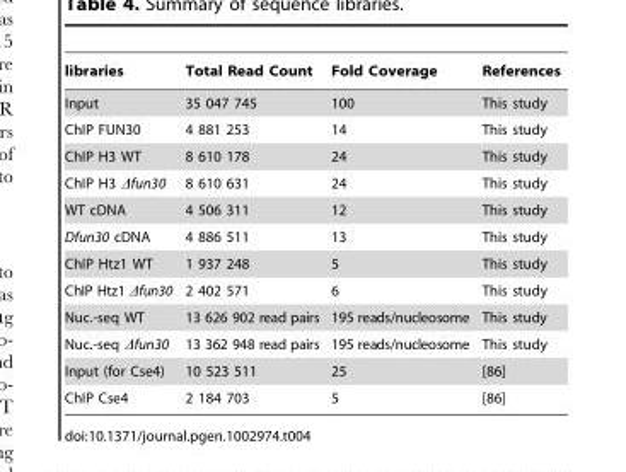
<table><thead><tr><td>libraries</td><td>Total Read Count</td><td>Fold Coverage</td><td>References</td></tr></thead><tbody><tr><td>Input</td><td>35 047 745</td><td>100</td><td>This study</td></tr><tr><td>ChIP FUN30</td><td>4 881 253</td><td>14</td><td>This study</td></tr><tr><td>ChIP H3 WT</td><td>8 610 178</td><td>24</td><td>This study</td></tr><tr><td>ChIP H3 Δfun30</td><td>8 610 631</td><td>24</td><td>This study</td></tr><tr><td>WT cDNA</td><td>4 506 311</td><td>12</td><td>This study</td></tr><tr><td>Dfun30 cDNA</td><td>4 886 511</td><td>13</td><td>This study</td></tr><tr><td>ChIP Htz1 WT</td><td>1 937 248</td><td>5</td><td>This study</td></tr><tr><td>ChIP Htz1 Δfun30</td><td>2 402 571</td><td>6</td><td>This study</td></tr><tr><td>Nuc.-seq WT</td><td>13 626 902 read pairs</td><td>195 reads/nucleosome</td><td>This study</td></tr><tr><td>Nuc.-seq Δfun30</td><td>13 362 948 read pairs</td><td>195 reads/nucleosome</td><td>This study</td></tr><tr><td>Input (for Cse4)</td><td>10 523 511</td><td>25</td><td>[86]</td></tr><tr><td>ChIP Cse4</td><td>2 184 703</td><td>5</td><td>[86]</td></tr></tbody></table>